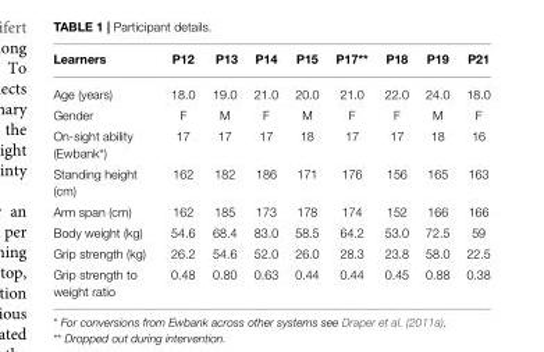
<table><thead><tr><td>Learners</td><td>P12</td><td>P13</td><td>P14</td><td>P15</td><td>P17**</td><td>P18</td><td>P19</td><td>P21</td></tr></thead><tbody><tr><td>Age (years)</td><td>18.0</td><td>19.0</td><td>21.0</td><td>20.0</td><td>21.0</td><td>22.0</td><td>24.0</td><td>18.0</td></tr><tr><td>Gender</td><td>F</td><td>M</td><td>F</td><td>M</td><td>F</td><td>F</td><td>M</td><td>F</td></tr><tr><td>On-sight ability (Ewbank*)</td><td>17</td><td>17</td><td>17</td><td>18</td><td>17</td><td>17</td><td>18</td><td>16</td></tr><tr><td>Standing height (cm)</td><td>162</td><td>182</td><td>186</td><td>171</td><td>176</td><td>156</td><td>165</td><td>163</td></tr><tr><td>Arm span (cm)</td><td>162</td><td>185</td><td>173</td><td>178</td><td>174</td><td>152</td><td>166</td><td>166</td></tr><tr><td>Body weight (kg)</td><td>54.6</td><td>68.4</td><td>83.0</td><td>58.5</td><td>64.2</td><td>53.0</td><td>72.5</td><td>59</td></tr><tr><td>Grip strength (kg)</td><td>26.2</td><td>54.6</td><td>52.0</td><td>26.0</td><td>28.3</td><td>23.8</td><td>58.0</td><td>22.5</td></tr><tr><td>Grip strength to weight ratio</td><td>0.48</td><td>0.80</td><td>0.63</td><td>0.44</td><td>0.44</td><td>0.45</td><td>0.88</td><td>0.38</td></tr></tbody></table>